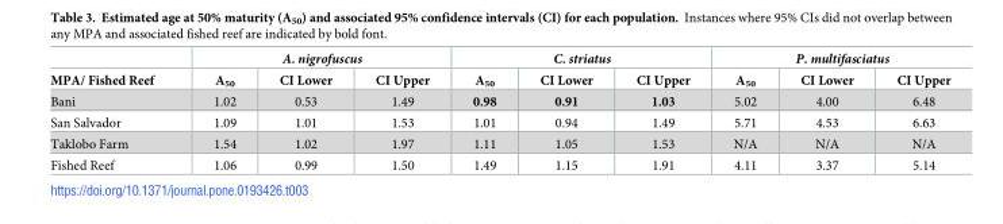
<table><thead><tr><td rowspan="2">MPA/ Fished Reef</td><td colspan="3">A. nigrofuscus</td><td colspan="3">C. striatus</td><td colspan="3">P. multifasciatus</td></tr><tr><td>A<sub>50</sub></td><td>CI Lower</td><td>CI Upper</td><td>A<sub>50</sub></td><td>CI Lower</td><td>CI Upper</td><td>A<sub>50</sub></td><td>CI Lower</td><td>CI Upper</td></tr></thead><tbody><tr><td>Bani</td><td>1.02</td><td>0.53</td><td>1.49</td><td>0.98</td><td>0.91</td><td>1.03</td><td>5.02</td><td>4.00</td><td>6.48</td></tr><tr><td>San Salvador</td><td>1.09</td><td>1.01</td><td>1.53</td><td>1.01</td><td>0.94</td><td>1.49</td><td>5.71</td><td>4.53</td><td>6.63</td></tr><tr><td>Taklobo Farm</td><td>1.54</td><td>1.02</td><td>1.97</td><td>1.11</td><td>1.05</td><td>1.53</td><td>N/A</td><td>N/A</td><td>N/A</td></tr><tr><td>Fished Reef</td><td>1.06</td><td>0.99</td><td>1.50</td><td>1.49</td><td>1.15</td><td>1.91</td><td>4.11</td><td>3.37</td><td>5.14</td></tr></tbody></table>